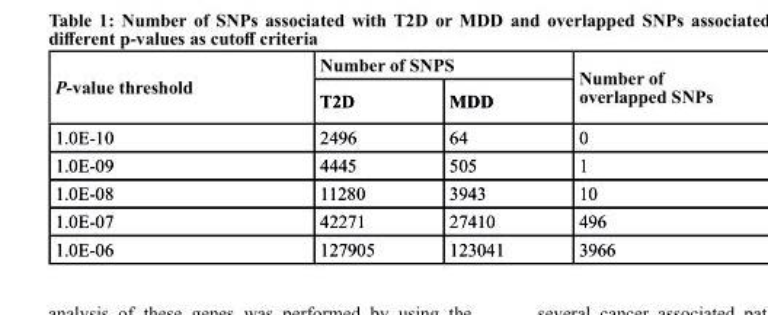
<table><thead><tr><td rowspan="2">P-value threshold</td><td colspan="2">Number of sNPs</td><td rowspan="2">Number of overlapped sNPs</td></tr><tr><td>t2D</td><td>MDD</td></tr></thead><tbody><tr><td>1.0E-10</td><td>2496</td><td>64</td><td>0</td></tr><tr><td>1.0E-09</td><td>4445</td><td>505</td><td>1</td></tr><tr><td>1.0E-08</td><td>11280</td><td>3943</td><td>10</td></tr><tr><td>1.0E-07</td><td>42271</td><td>27410</td><td>496</td></tr><tr><td>1.0E-06</td><td>127905</td><td>123041</td><td>3966</td></tr></tbody></table>